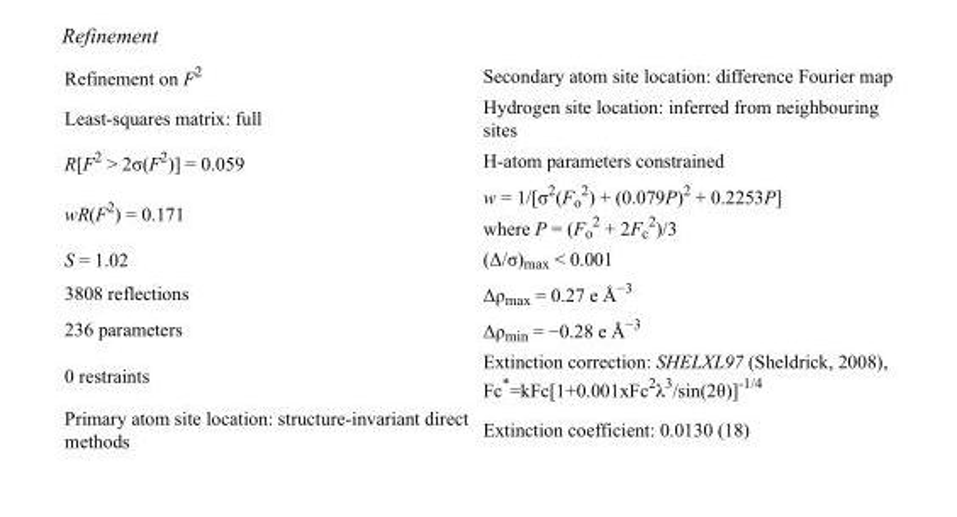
<table><tbody><tr><td>Refinement on F<sup>2</sup></td><td>Secondary atom site location: difference Fourier map</td></tr><tr><td>Least-squares matrix: full</td><td>Hydrogen site location: inferred from neighbouring sites</td></tr><tr><td>R[F<sup>2</sup> &gt; 2σ(F<sup>2</sup>)] = 0.059</td><td>H-atom parameters constrained</td></tr><tr><td>wR(F<sup>2</sup>) = 0.171</td><td>w = 1/[σ<sup>2</sup>(F<sub>o</sub> <sup>2</sup>) + (0.079P)<sup>2</sup> + 0.2253P] where P = (F<sub>o</sub> <sup>2</sup> + 2F<sub>c</sub> <sup>2</sup>)/3</td></tr><tr><td>S = 1.02</td><td>(Δ/σ)<sub>max</sub> &lt; 0.001</td></tr><tr><td>3808 reflections</td><td>Δρ<sub>max</sub> = 0.27 e Å<sup>−3</sup></td></tr><tr><td>236 parameters</td><td>Δρ<sub>min</sub> = −0.28 e Å<sup>−3</sup></td></tr><tr><td>0 restraints</td><td>Extinction correction: SHELXL97 (Sheldrick, 2008), Fc*=kFc[1+0.001xFc<sup>2</sup>λ<sup>3</sup>/sin(2θ)]<sup>-1/4</sup></td></tr><tr><td>Primary atom site location: structure-invariant direct methods</td><td>Extinction coefficient: 0.0130 (18)</td></tr></tbody></table>